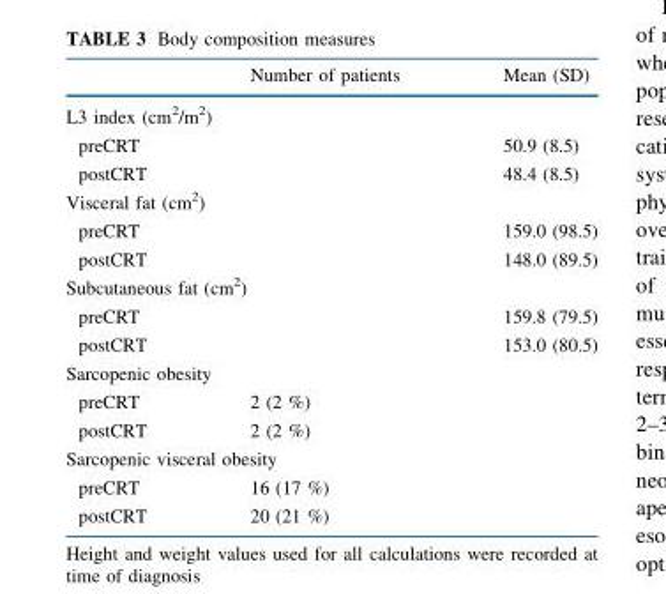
<table><thead><tr><td></td><td>Number of patients</td><td>Mean (SD)</td></tr></thead><tbody><tr><td colspan="3">L3 index (cm<sup>2</sup>/m<sup>2</sup>)</td></tr><tr><td>preCRT</td><td></td><td>50.9 (8.5)</td></tr><tr><td>postCRT</td><td></td><td>48.4 (8.5)</td></tr><tr><td colspan="3">Visceral fat (cm<sup>2</sup>)</td></tr><tr><td>preCRT</td><td></td><td>159.0 (98.5)</td></tr><tr><td>postCRT</td><td></td><td>148.0 (89.5)</td></tr><tr><td colspan="3">Subcutaneous fat (cm<sup>2</sup>)</td></tr><tr><td>preCRT</td><td></td><td>159.8 (79.5)</td></tr><tr><td>postCRT</td><td></td><td>153.0 (80.5)</td></tr><tr><td colspan="3">Sarcopenic obesity</td></tr><tr><td>preCRT</td><td>2 (2 %)</td><td></td></tr><tr><td>postCRT</td><td>2 (2 %)</td><td></td></tr><tr><td colspan="3">Sarcopenic visceral obesity</td></tr><tr><td>preCRT</td><td>16 (17 %)</td><td></td></tr><tr><td>postCRT</td><td>20 (21 %)</td><td></td></tr></tbody></table>